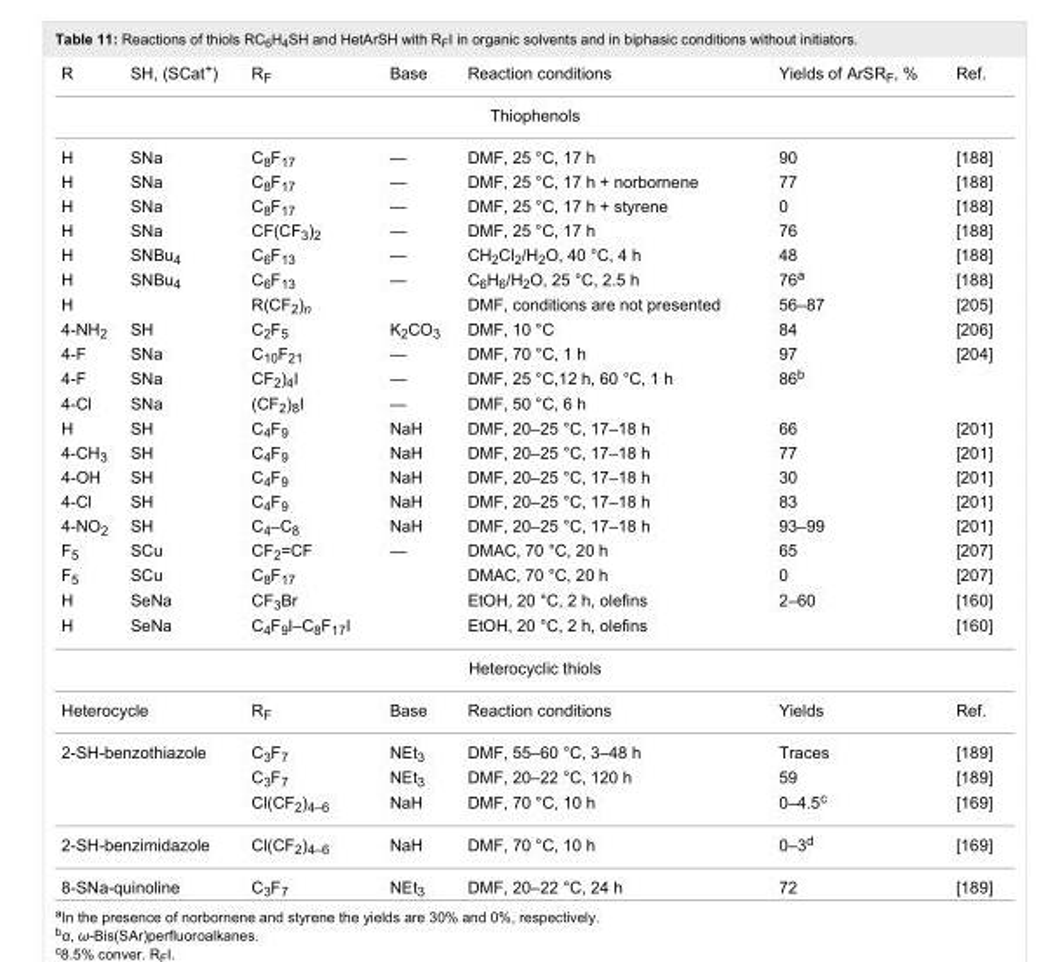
<table><tbody><tr><td>R</td><td>SH, (SCat<sup>+</sup>)</td><td>R<sub>F</sub></td><td>Base</td><td>Reaction conditions</td><td>Yields of ArSR<sub>F</sub>, %</td><td>Ref.</td></tr><tr><td colspan="7">Thiophenols</td></tr><tr><td>H</td><td>SNa</td><td>C<sub>8</sub>F<sub>17</sub></td><td>—</td><td>DMF, 25 °C, 17 h</td><td>90</td><td>[188]</td></tr><tr><td>H</td><td>SNa</td><td>C<sub>8</sub>F<sub>17</sub></td><td>—</td><td>DMF, 25 °C, 17 h + norbornene</td><td>77</td><td>[188]</td></tr><tr><td>H</td><td>SNa</td><td>C<sub>8</sub>F<sub>17</sub></td><td>—</td><td>DMF, 25 °C, 17 h + styrene</td><td>0</td><td>[188]</td></tr><tr><td>H</td><td>SNa</td><td>CF(CF<sub>3</sub>)<sub>2</sub></td><td>—</td><td>DMF, 25 °C, 17 h</td><td>76</td><td>[188]</td></tr><tr><td>H</td><td>SNBu<sub>4</sub></td><td>C<sub>6</sub>F<sub>13</sub></td><td>—</td><td>CH<sub>2</sub>Cl<sub>2</sub>/H<sub>2</sub>O, 40 °C, 4 h</td><td>48</td><td>[188]</td></tr><tr><td>H</td><td>SNBu<sub>4</sub></td><td>C<sub>6</sub>F<sub>13</sub></td><td>—</td><td>C<sub>6</sub>H<sub>6</sub>/H<sub>2</sub>O, 25 °C, 2.5 h</td><td>76<sup>a</sup></td><td>[188]</td></tr><tr><td>H</td><td></td><td>R(CF<sub>2</sub>)<sub>n</sub></td><td></td><td>DMF, conditions are not presented</td><td>56–87</td><td>[205]</td></tr><tr><td>4-NH<sub>2</sub></td><td>SH</td><td>C<sub>2</sub>F<sub>5</sub></td><td>K<sub>2</sub>CO<sub>3</sub></td><td>DMF, 10 °C</td><td>84</td><td>[206]</td></tr><tr><td>4-F</td><td>SNa</td><td>C<sub>10</sub>F<sub>21</sub></td><td>—</td><td>DMF, 70 °C, 1 h</td><td>97</td><td>[204]</td></tr><tr><td>4-F</td><td>SNa</td><td>CF<sub>2</sub>)<sub>4</sub>I</td><td>—</td><td>DMF, 25 °C,12 h, 60 °C, 1 h</td><td>86<sup>b</sup></td><td></td></tr><tr><td>4-Cl</td><td>SNa</td><td>(CF<sub>2</sub>)<sub>8</sub>I</td><td>—</td><td>DMF, 50 °C, 6 h</td><td></td><td></td></tr><tr><td>H</td><td>SH</td><td>C<sub>4</sub>F<sub>9</sub></td><td>NaH</td><td>DMF, 20–25 °C, 17–18 h</td><td>66</td><td>[201]</td></tr><tr><td>4-CH<sub>3</sub></td><td>SH</td><td>C<sub>4</sub>F<sub>9</sub></td><td>NaH</td><td>DMF, 20–25 °C, 17–18 h</td><td>77</td><td>[201]</td></tr><tr><td>4-OH</td><td>SH</td><td>C<sub>4</sub>F<sub>9</sub></td><td>NaH</td><td>DMF, 20–25 °C, 17–18 h</td><td>30</td><td>[201]</td></tr><tr><td>4-Cl</td><td>SH</td><td>C<sub>4</sub>F<sub>9</sub></td><td>NaH</td><td>DMF, 20–25 °C, 17–18 h</td><td>83</td><td>[201]</td></tr><tr><td>4-NO<sub>2</sub></td><td>SH</td><td>C<sub>4</sub>–C<sub>8</sub></td><td>NaH</td><td>DMF, 20–25 °C, 17–18 h</td><td>93–99</td><td>[201]</td></tr><tr><td>F<sub>5</sub></td><td>SCu</td><td>CF<sub>2</sub>=CF</td><td>—</td><td>DMAC, 70 °C, 20 h</td><td>65</td><td>[207]</td></tr><tr><td>F<sub>5</sub></td><td>SCu</td><td>C<sub>8</sub>F<sub>17</sub></td><td></td><td>DMAC, 70 °C, 20 h</td><td>0</td><td>[207]</td></tr><tr><td>H</td><td>SeNa</td><td>CF<sub>3</sub>Br</td><td></td><td>EtOH, 20 °C, 2 h, olefins</td><td>2–60</td><td>[160]</td></tr><tr><td>H</td><td>SeNa</td><td>C<sub>4</sub>F<sub>9</sub>I–C<sub>8</sub>F<sub>17</sub>I</td><td></td><td>EtOH, 20 °C, 2 h, olefins</td><td></td><td>[160]</td></tr><tr><td colspan="7">Heterocyclic thiols</td></tr><tr><td colspan="2">Heterocycle</td><td>R<sub>F</sub></td><td>Base</td><td>Reaction conditions</td><td>Yields</td><td>Ref.</td></tr><tr><td colspan="2">2-SH-benzothiazole</td><td>C<sub>3</sub>F<sub>7</sub></td><td>NEt<sub>3</sub></td><td>DMF, 55–60 °C, 3–48 h</td><td>Traces</td><td>[189]</td></tr><tr><td></td><td></td><td>C<sub>3</sub>F<sub>7</sub></td><td>NEt<sub>3</sub></td><td>DMF, 20–22 °C, 120 h</td><td>59</td><td>[189]</td></tr><tr><td></td><td></td><td>Cl(CF<sub>2</sub>)<sub>4–6</sub></td><td>NaH</td><td>DMF, 70 °C, 10 h</td><td>0–4.5<sup>c</sup></td><td>[169]</td></tr><tr><td colspan="2">2-SH-benzimidazole</td><td>Cl(CF<sub>2</sub>)<sub>4–6</sub></td><td>NaH</td><td>DMF, 70 °C, 10 h</td><td>0–3<sup>d</sup></td><td>[169]</td></tr><tr><td colspan="2">8-SNa-quinoline</td><td>C<sub>3</sub>F<sub>7</sub></td><td>NEt<sub>3</sub></td><td>DMF, 20–22 °C, 24 h</td><td>72</td><td>[189]</td></tr></tbody></table>